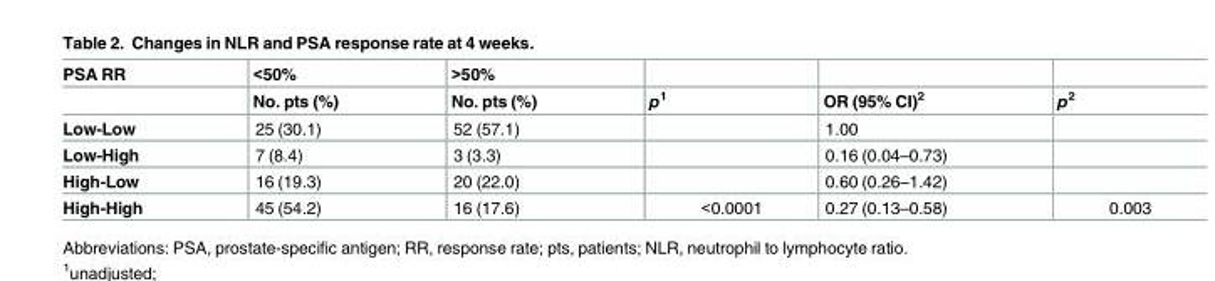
<table><thead><tr><td rowspan="2">PSA RR</td><td rowspan="2">&lt;50% No. pts (%)</td><td rowspan="2">&gt;50% No. pts (%)</td><td rowspan="2">p<sup>1</sup></td><td rowspan="2">OR (95% CI)<sup>2</sup></td><td rowspan="2">p<sup>2</sup></td></tr><tr></tr></thead><tbody><tr><td>Low-Low</td><td>25 (30.1)</td><td>52 (57.1)</td><td></td><td>1.00</td><td></td></tr><tr><td>Low-High</td><td>7 (8.4)</td><td>3 (3.3)</td><td></td><td>0.16 (0.04–0.73)</td><td></td></tr><tr><td>High-Low</td><td>16 (19.3)</td><td>20 (22.0)</td><td></td><td>0.60 (0.26–1.42)</td><td></td></tr><tr><td>High-High</td><td>45 (54.2)</td><td>16 (17.6)</td><td>&lt;0.0001</td><td>0.27 (0.13–0.58)</td><td>0.003</td></tr></tbody></table>